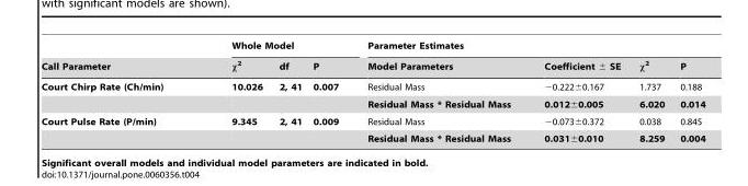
<table><thead><tr><td rowspan="2">Call Parameter</td><td colspan="3">Whole Model</td><td colspan="4">Parameter Estimates</td></tr><tr><td>χ<sup>2</sup></td><td>df</td><td>P</td><td>Model Parameters</td><td>Coefficient ± SE</td><td>χ<sup>2</sup></td><td>P</td></tr></thead><tbody><tr><td rowspan="2">Court Chirp Rate (Ch/min)</td><td>10.026</td><td>2, 41</td><td>0.007</td><td>Residual Mass</td><td>−0.222±0.167</td><td>1.737</td><td>0.188</td></tr><tr><td></td><td></td><td></td><td>Residual Mass * Residual Mass</td><td>0.012±0.005</td><td>6.020</td><td>0.014</td></tr><tr><td rowspan="2">Court Pulse Rate (P/min)</td><td>9.345</td><td>2, 41</td><td>0.009</td><td>Residual Mass</td><td>−0.073±0.372</td><td>0.038</td><td>0.845</td></tr><tr><td></td><td></td><td></td><td>Residual Mass * Residual Mass</td><td>0.031±0.010</td><td>8.259</td><td>0.004</td></tr></tbody></table>